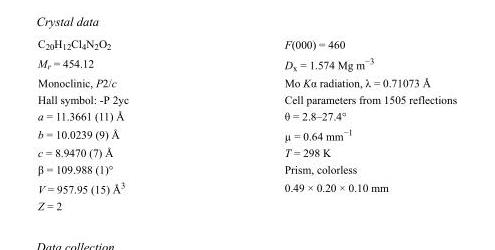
<table><tbody><tr><td>C<sub>20</sub>H<sub>12</sub>Cl<sub>4</sub>N<sub>2</sub>O<sub>2</sub></td><td>F(000) = 460</td></tr><tr><td>M<sub>r</sub> = 454.12</td><td>D<sub>x</sub> = 1.574 Mg m<sup>−3</sup></td></tr><tr><td>Monoclinic, P2/c</td><td>Mo Kα radiation, λ = 0.71073 Å</td></tr><tr><td>Hall symbol: -P 2yc</td><td>Cell parameters from 1505 reflections</td></tr><tr><td>a = 11.3661 (11) Å</td><td>θ = 2.8–27.4°</td></tr><tr><td>b = 10.0239 (9) Å</td><td>µ = 0.64 mm<sup>−1</sup></td></tr><tr><td>c = 8.9470 (7) Å</td><td>T = 298 K</td></tr><tr><td>β = 109.988 (1)°</td><td>Prism, colorless</td></tr><tr><td>V = 957.95 (15) Å<sup>3</sup></td><td>0.49 × 0.20 × 0.10 mm</td></tr><tr><td>Z = 2</td><td></td></tr></tbody></table>